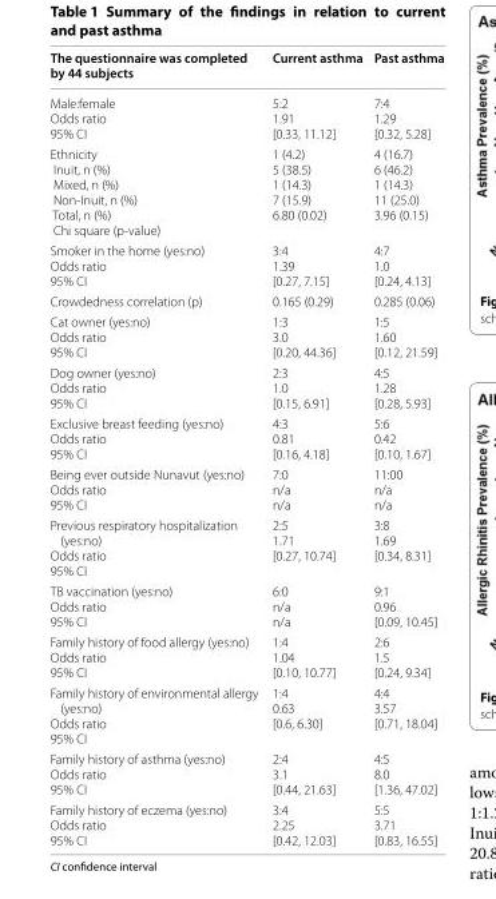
<table><thead><tr><td>The questionnaire was completed by 44 subjects</td><td>Current asthma</td><td>Past asthma</td></tr></thead><tbody><tr><td>Male:female Odds ratio 95% CI</td><td>5:2 1.91 [0.33, 11.12]</td><td>7:4 1.29 [0.32, 5.28]</td></tr><tr><td>Ethnicity Inuit, n (%) Mixed, n (%) Non-Inuit, n (%) Total, n (%) Chi square (p-value)</td><td>1 (4.2) 5 (38.5) 1 (14.3) 7 (15.9) 6.80 (0.02)</td><td>4 (16.7) 6 (46.2) 1 (14.3) 11 (25.0) 3.96 (0.15)</td></tr><tr><td>Smoker in the home (yes:no) Odds ratio 95% CI</td><td>3:4 1.39 [0.27, 7.15]</td><td>4:7 1.0 [0.24, 4.13]</td></tr><tr><td>Crowdedness correlation (p)</td><td>0.165 (0.29)</td><td>0.285 (0.06)</td></tr><tr><td>Cat owner (yes:no) Odds ratio 95% CI</td><td>1:3 3.0 [0.20, 44.36]</td><td>1:5 1.60 [0.12, 21.59]</td></tr><tr><td>Dog owner (yes:no) Odds ratio 95% CI</td><td>2:3 1.0 [0.15, 6.91]</td><td>4:5 1.28 [0.28, 5.93]</td></tr><tr><td>Exclusive breast feeding (yes:no) Odds ratio 95% CI</td><td>4:3 0.81 [0.16, 4.18]</td><td>5:6 0.42 [0.10, 1.67]</td></tr><tr><td>Being ever outside Nunavut (yes:no) Odds ratio 95% CI</td><td>7:0 n/a n/a</td><td>11:00 n/a n/a</td></tr><tr><td>Previous respiratory hospitalization (yes:no) Odds ratio 95% CI</td><td>2:5 1.71 [0.27, 10.74]</td><td>3:8 1.69 [0.34, 8.31]</td></tr><tr><td>TB vaccination (yes:no) Odds ratio 95% CI</td><td>6:0 n/a n/a</td><td>9:1 0.96 [0.09, 10.45]</td></tr><tr><td>Family history of food allergy (yes:no) Odds ratio 95% CI</td><td>1:4 1.04 [0.10, 10.77]</td><td>2:6 1.5 [0.24, 9.34]</td></tr><tr><td>Family history of environmental allergy (yes:no) Odds ratio 95% CI</td><td>1:4 0.63 [0.6, 6.30]</td><td>4:4 3.57 [0.71, 18.04]</td></tr><tr><td>Family history of asthma (yes:no) Odds ratio 95% CI</td><td>2:4 3.1 [0.44, 21.63]</td><td>4:5 8.0 [1.36, 47.02]</td></tr><tr><td>Family history of eczema (yes:no) Odds ratio 95% CI</td><td>3:4 2.25 [0.42, 12.03]</td><td>5:5 3.71 [0.83, 16.55]</td></tr></tbody></table>